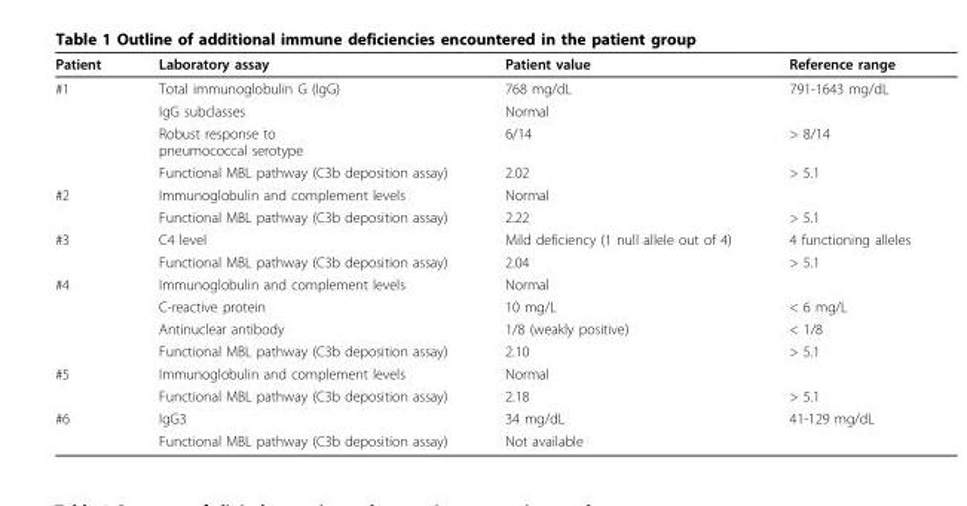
<table><thead><tr><td>Patient</td><td>Laboratory assay</td><td>Patient value</td><td>Reference range</td></tr></thead><tbody><tr><td rowspan="4">#1</td><td>Total immunoglobulin G (IgG)</td><td>768 mg/dL</td><td>791-1643 mg/dL</td></tr><tr><td>IgG subclasses</td><td>Normal</td><td></td></tr><tr><td>Robust response to pneumococcal serotype</td><td>6/14</td><td>&gt; 8/14</td></tr><tr><td>Functional MBL pathway (C3b deposition assay)</td><td>2.02</td><td>&gt; 5.1</td></tr><tr><td rowspan="2">#2</td><td>Immunoglobulin and complement levels</td><td>Normal</td><td></td></tr><tr><td>Functional MBL pathway (C3b deposition assay)</td><td>2.22</td><td>&gt; 5.1</td></tr><tr><td rowspan="2">#3</td><td>C4 level</td><td>Mild deficiency (1 null allele out of 4)</td><td>4 functioning alleles</td></tr><tr><td>Functional MBL pathway (C3b deposition assay)</td><td>2.04</td><td>&gt; 5.1</td></tr><tr><td rowspan="4">#4</td><td>Immunoglobulin and complement levels</td><td>Normal</td><td></td></tr><tr><td>C-reactive protein</td><td>10 mg/L</td><td>&lt; 6 mg/L</td></tr><tr><td>Antinuclear antibody</td><td>1/8 (weakly positive)</td><td>&lt; 1/8</td></tr><tr><td>Functional MBL pathway (C3b deposition assay)</td><td>2.10</td><td>&gt; 5.1</td></tr><tr><td rowspan="2">#5</td><td>Immunoglobulin and complement levels</td><td>Normal</td><td></td></tr><tr><td>Functional MBL pathway (C3b deposition assay)</td><td>2.18</td><td>&gt; 5.1</td></tr><tr><td rowspan="2">#6</td><td>IgG3</td><td>34 mg/dL</td><td>41-129 mg/dL</td></tr><tr><td>Functional MBL pathway (C3b deposition assay)</td><td>Not available</td><td></td></tr></tbody></table>